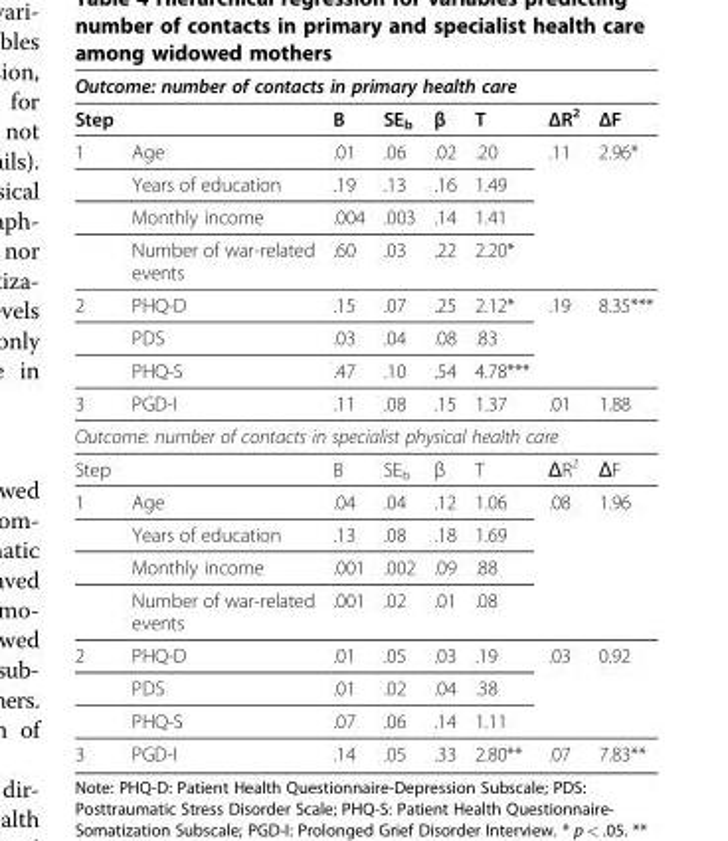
<table><thead><tr><td colspan="8">Outcome: number of contacts in primary health care</td></tr><tr><td>Step</td><td></td><td>B</td><td>SE<sub>b</sub></td><td>β</td><td>T</td><td>ΔR<sup>2</sup></td><td>ΔF</td></tr></thead><tbody><tr><td rowspan="4">1</td><td>Age</td><td>.01</td><td>.06</td><td>.02</td><td>.20</td><td rowspan="4">.11</td><td rowspan="4">2.96*</td></tr><tr><td>Years of education</td><td>.19</td><td>.13</td><td>.16</td><td>1.49</td></tr><tr><td>Monthly income</td><td>.004</td><td>.003</td><td>.14</td><td>1.41</td></tr><tr><td>Number of war-related events</td><td>.60</td><td>.03</td><td>.22</td><td>2.20*</td></tr><tr><td rowspan="3">2</td><td>PHQ-D</td><td>.15</td><td>.07</td><td>.25</td><td>2.12*</td><td rowspan="3">.19</td><td rowspan="3">8.35***</td></tr><tr><td>PDS</td><td>.03</td><td>.04</td><td>.08</td><td>.83</td></tr><tr><td>PHQ-S</td><td>.47</td><td>.10</td><td>.54</td><td>4.78***</td></tr><tr><td>3</td><td>PGD-I</td><td>.11</td><td>.08</td><td>.15</td><td>1.37</td><td>.01</td><td>1.88</td></tr><tr><td colspan="8">Outcome: number of contacts in specialist physical health care</td></tr><tr><td>Step</td><td></td><td>B</td><td>SE<sub>b</sub></td><td>β</td><td>T</td><td>ΔR<sup>2</sup></td><td>ΔF</td></tr><tr><td rowspan="4">1</td><td>Age</td><td>.04</td><td>.04</td><td>.12</td><td>1.06</td><td rowspan="4">.08</td><td rowspan="4">1.96</td></tr><tr><td>Years of education</td><td>.13</td><td>.08</td><td>.18</td><td>1.69</td></tr><tr><td>Monthly income</td><td>.001</td><td>.002</td><td>.09</td><td>.88</td></tr><tr><td>Number of war-related events</td><td>.001</td><td>.02</td><td>.01</td><td>.08</td></tr><tr><td rowspan="3">2</td><td>PHQ-D</td><td>.01</td><td>.05</td><td>.03</td><td>.19</td><td rowspan="3">.03</td><td rowspan="3">0.92</td></tr><tr><td>PDS</td><td>.01</td><td>.02</td><td>.04</td><td>.38</td></tr><tr><td>PHQ-S</td><td>.07</td><td>.06</td><td>.14</td><td>1.11</td></tr><tr><td>3</td><td>PGD-I</td><td>.14</td><td>.05</td><td>.33</td><td>2.80**</td><td>.07</td><td>7.83**</td></tr></tbody></table>